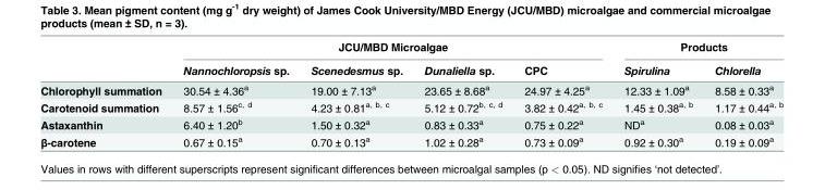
<table><thead><tr><td rowspan="2"></td><td colspan="4">JCU/MBD Microalgae</td><td colspan="2">Products</td></tr><tr><td>Nannochloropsis sp.</td><td>Scenedesmus sp.</td><td>Dunaliella sp.</td><td>CPC</td><td>Spirulina</td><td>Chlorella</td></tr></thead><tbody><tr><td>Chlorophyll summation</td><td>30.54 ± 4.36<sup>a</sup></td><td>19.00 ± 7.13<sup>a</sup></td><td>23.65 ± 8.68<sup>a</sup></td><td>24.97 ± 4.25<sup>a</sup></td><td>12.33 ± 1.09<sup>a</sup></td><td>8.58 ± 0.33<sup>a</sup></td></tr><tr><td>Carotenoid summation</td><td>8.57 ± 1.56<sup>c, d</sup></td><td>4.23 ± 0.81<sup>a, b, c</sup></td><td>5.12 ± 0.72<sup>b, c, d</sup></td><td>3.82 ± 0.42<sup>a, b, c</sup></td><td>1.45 ± 0.38<sup>a, b</sup></td><td>1.17 ± 0.44<sup>a, b</sup></td></tr><tr><td>Astaxanthin</td><td>6.40 ± 1.20<sup>b</sup></td><td>1.50 ± 0.32<sup>a</sup></td><td>0.83 ± 0.33<sup>a</sup></td><td>0.75 ± 0.22<sup>a</sup></td><td>ND<sup>a</sup></td><td>0.08 ± 0.03<sup>a</sup></td></tr><tr><td>β-carotene</td><td>0.67 ± 0.15<sup>a</sup></td><td>0.70 ± 0.13<sup>a</sup></td><td>1.02 ± 0.28<sup>a</sup></td><td>0.73 ± 0.09<sup>a</sup></td><td>0.92 ± 0.30<sup>a</sup></td><td>0.19 ± 0.09<sup>a</sup></td></tr></tbody></table>